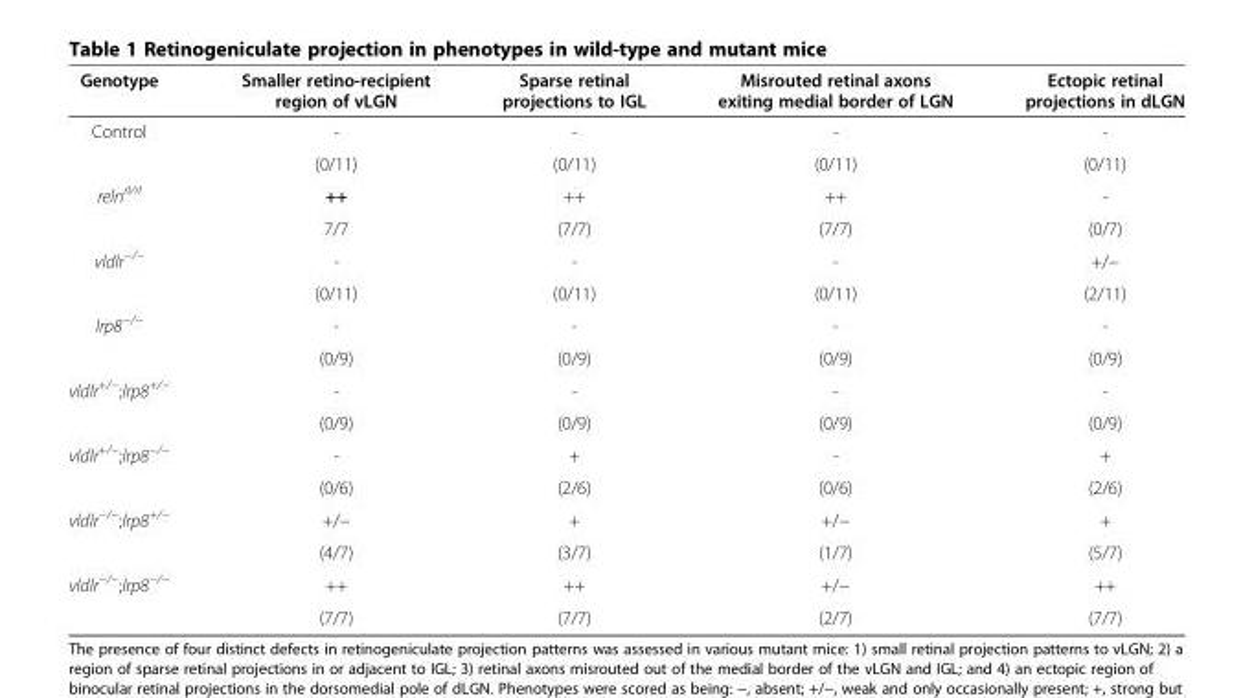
<table><thead><tr><td>Genotype</td><td>Smaller retino-recipient region of vLGN</td><td>Sparse retinal projections to IGL</td><td>Misrouted retinal axons exiting medial border of LGN</td><td>Ectopic retinal projections in dLGN</td></tr></thead><tbody><tr><td rowspan="2">Control</td><td>-</td><td>-</td><td>-</td><td>-</td></tr><tr><td>(0/11)</td><td>(0/11)</td><td>(0/11)</td><td>(0/11)</td></tr><tr><td rowspan="2">reln<sup>rl/rl</sup></td><td>++</td><td>++</td><td>++</td><td>-</td></tr><tr><td>7/7</td><td>(7/7)</td><td>(7/7)</td><td>(0/7)</td></tr><tr><td rowspan="2">vldlr<sup>−/−</sup></td><td>-</td><td>-</td><td>-</td><td>+/−</td></tr><tr><td>(0/11)</td><td>(0/11)</td><td>(0/11)</td><td>(2/11)</td></tr><tr><td rowspan="2">lrp8<sup>−/−</sup></td><td>-</td><td>-</td><td>-</td><td>-</td></tr><tr><td>(0/9)</td><td>(0/9)</td><td>(0/9)</td><td>(0/9)</td></tr><tr><td rowspan="2">vldlr<sup>+/−</sup>;lrp8<sup>+/−</sup></td><td>-</td><td>-</td><td>-</td><td>-</td></tr><tr><td>(0/9)</td><td>(0/9)</td><td>(0/9)</td><td>(0/9)</td></tr><tr><td rowspan="2">vldlr<sup>+/−</sup>;lrp8<sup>−/−</sup></td><td>-</td><td>+</td><td>-</td><td>+</td></tr><tr><td>(0/6)</td><td>(2/6)</td><td>(0/6)</td><td>(2/6)</td></tr><tr><td rowspan="2">vldlr<sup>−/−</sup>;lrp8<sup>+/−</sup></td><td>+/−</td><td>+</td><td>+/−</td><td>+</td></tr><tr><td>(4/7)</td><td>(3/7)</td><td>(1/7)</td><td>(5/7)</td></tr><tr><td rowspan="2">vldlr<sup>−/−</sup>;lrp8<sup>−/−</sup></td><td>++</td><td>++</td><td>+/−</td><td>++</td></tr><tr><td>(7/7)</td><td>(7/7)</td><td>(2/7)</td><td>(7/7)</td></tr></tbody></table>